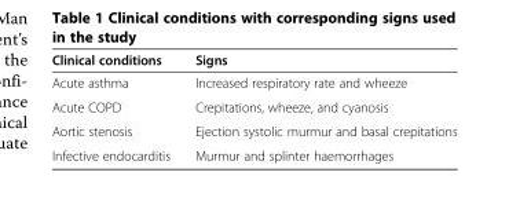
<table><thead><tr><td>Clinical conditions</td><td>Signs</td></tr></thead><tbody><tr><td>Acute asthma</td><td>Increased respiratory rate and wheeze</td></tr><tr><td>Acute COPD</td><td>Crepitations, wheeze, and cyanosis</td></tr><tr><td>Aortic stenosis</td><td>Ejection systolic murmur and basal crepitations</td></tr><tr><td>Infective endocarditis</td><td>Murmur and splinter haemorrhages</td></tr></tbody></table>